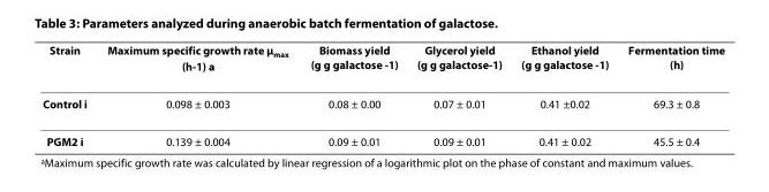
<table><thead><tr><td>Strain</td><td>Maximum specific growth rate μ<sub>max</sub> (h<sup>-1</sup>) <sup>a</sup></td><td>Biomass yield (g g galactose <sup>-1</sup>)</td><td>Glycerol yield (g g galactose<sup>-1</sup>)</td><td>Ethanol yield (g g galactose <sup>-1</sup>)</td><td>Fermentation time (h)</td></tr></thead><tbody><tr><td>Control i</td><td>0.098 ± 0.003</td><td>0.08 ± 0.00</td><td>0.07 ± 0.01</td><td>0.41 ±0.02</td><td>69.3 ± 0.8</td></tr><tr><td>PGM2 i</td><td>0.139 ± 0.004</td><td>0.09 ± 0.01</td><td>0.09 ± 0.01</td><td>0.41 ± 0.02</td><td>45.5 ± 0.4</td></tr></tbody></table>